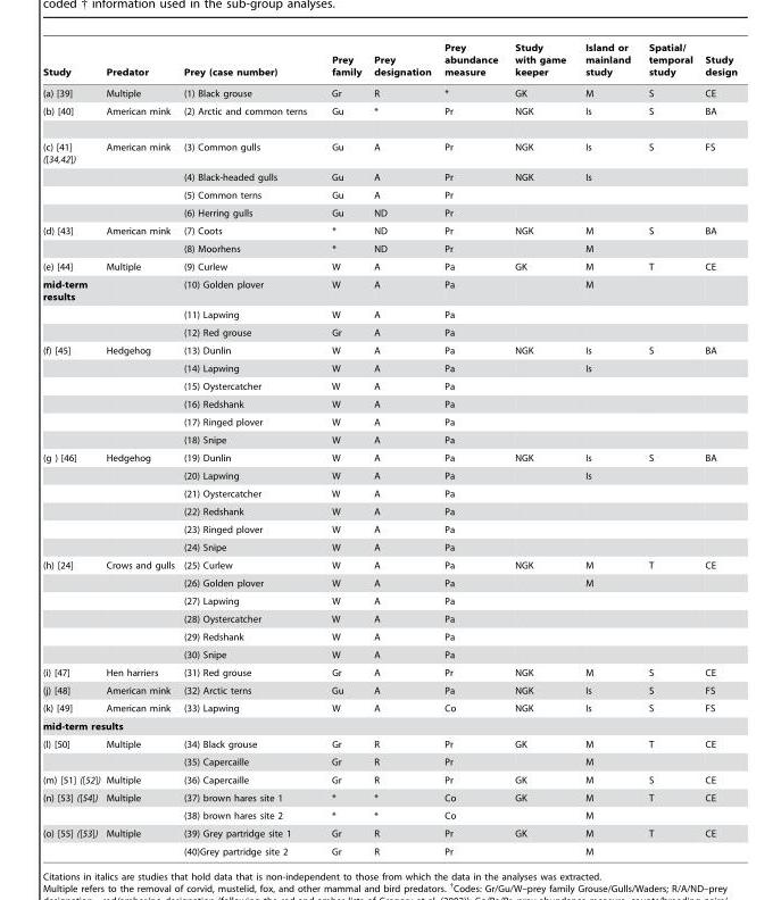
<table><thead><tr><td>Study</td><td>Predator</td><td>Prey (case number)</td><td>Prey family</td><td>Prey designation</td><td>Prey abundance measure</td><td>Study with game keeper</td><td>Island or mainland study</td><td>Spatial/ temporal study</td><td>Study design</td></tr></thead><tbody><tr><td>(a) [39]</td><td>Multiple</td><td>(1) Black grouse</td><td>Gr</td><td>R</td><td>*</td><td>GK</td><td>M</td><td>S</td><td>CE</td></tr><tr><td>(b) [40]</td><td>American mink</td><td>(2) Arctic and common terns</td><td>Gu</td><td>*</td><td>Pr</td><td>NGK</td><td>Is</td><td>S</td><td>BA</td></tr><tr><td rowspan="4">(c) [41] ([34,42])</td><td>American mink</td><td>(3) Common gulls</td><td>Gu</td><td>A</td><td>Pr</td><td>NGK</td><td>Is</td><td>S</td><td>FS</td></tr><tr><td></td><td>(4) Black-headed gulls</td><td>Gu</td><td>A</td><td>Pr</td><td>NGK</td><td>Is</td><td></td><td></td></tr><tr><td></td><td>(5) Common terns</td><td>Gu</td><td>A</td><td>Pr</td><td></td><td></td><td></td><td></td></tr><tr><td></td><td>(6) Herring gulls</td><td>Gu</td><td>ND</td><td>Pr</td><td></td><td></td><td></td><td></td></tr><tr><td rowspan="2">(d) [43]</td><td>American mink</td><td>(7) Coots</td><td>*</td><td>ND</td><td>Pr</td><td>NGK</td><td>M</td><td>S</td><td>BA</td></tr><tr><td></td><td>(8) Moorhens</td><td>*</td><td>ND</td><td>Pr</td><td></td><td>M</td><td></td><td></td></tr><tr><td>(e) [44]</td><td>Multiple</td><td>(9) Curlew</td><td>W</td><td>A</td><td>Pa</td><td>GK</td><td>M</td><td>T</td><td>CE</td></tr><tr><td rowspan="3">mid-term results</td><td></td><td>(10) Golden plover</td><td>W</td><td>A</td><td>Pa</td><td></td><td>M</td><td></td><td></td></tr><tr><td></td><td>(11) Lapwing</td><td>W</td><td>A</td><td>Pa</td><td></td><td></td><td></td><td></td></tr><tr><td></td><td>(12) Red grouse</td><td>Gr</td><td>A</td><td>Pa</td><td></td><td></td><td></td><td></td></tr><tr><td rowspan="6">(f) [45]</td><td>Hedgehog</td><td>(13) Dunlin</td><td>W</td><td>A</td><td>Pa</td><td>NGK</td><td>Is</td><td>S</td><td>BA</td></tr><tr><td></td><td>(14) Lapwing</td><td>W</td><td>A</td><td>Pa</td><td></td><td>Is</td><td></td><td></td></tr><tr><td></td><td>(15) Oystercatcher</td><td>W</td><td>A</td><td>Pa</td><td></td><td></td><td></td><td></td></tr><tr><td></td><td>(16) Redshank</td><td>W</td><td>A</td><td>Pa</td><td></td><td></td><td></td><td></td></tr><tr><td></td><td>(17) Ringed plover</td><td>W</td><td>A</td><td>Pa</td><td></td><td></td><td></td><td></td></tr><tr><td></td><td>(18) Snipe</td><td>W</td><td>A</td><td>Pa</td><td></td><td></td><td></td><td></td></tr><tr><td rowspan="6">(g ) [46]</td><td>Hedgehog</td><td>(19) Dunlin</td><td>W</td><td>A</td><td>Pa</td><td>NGK</td><td>Is</td><td>S</td><td>BA</td></tr><tr><td></td><td>(20) Lapwing</td><td>W</td><td>A</td><td>Pa</td><td></td><td>Is</td><td></td><td></td></tr><tr><td></td><td>(21) Oystercatcher</td><td>W</td><td>A</td><td>Pa</td><td></td><td></td><td></td><td></td></tr><tr><td></td><td>(22) Redshank</td><td>W</td><td>A</td><td>Pa</td><td></td><td></td><td></td><td></td></tr><tr><td></td><td>(23) Ringed plover</td><td>W</td><td>A</td><td>Pa</td><td></td><td></td><td></td><td></td></tr><tr><td></td><td>(24) Snipe</td><td>W</td><td>A</td><td>Pa</td><td></td><td></td><td></td><td></td></tr><tr><td rowspan="6">(h) [24]</td><td>Crows and gulls</td><td>(25) Curlew</td><td>W</td><td>A</td><td>Pa</td><td>NGK</td><td>M</td><td>T</td><td>CE</td></tr><tr><td></td><td>(26) Golden plover</td><td>W</td><td>A</td><td>Pa</td><td></td><td>M</td><td></td><td></td></tr><tr><td></td><td>(27) Lapwing</td><td>W</td><td>A</td><td>Pa</td><td></td><td></td><td></td><td></td></tr><tr><td></td><td>(28) Oystercatcher</td><td>W</td><td>A</td><td>Pa</td><td></td><td></td><td></td><td></td></tr><tr><td></td><td>(29) Redshank</td><td>W</td><td>A</td><td>Pa</td><td></td><td></td><td></td><td></td></tr><tr><td></td><td>(30) Snipe</td><td>W</td><td>A</td><td>Pa</td><td></td><td></td><td></td><td></td></tr><tr><td>(i) [47]</td><td>Hen harriers</td><td>(31) Red grouse</td><td>Gr</td><td>A</td><td>Pr</td><td>NGK</td><td>M</td><td>S</td><td>CE</td></tr><tr><td>(j) [48]</td><td>American mink</td><td>(32) Arctic terns</td><td>Gu</td><td>A</td><td>Pa</td><td>NGK</td><td>Is</td><td>S</td><td>FS</td></tr><tr><td>(k) [49]</td><td>American mink</td><td>(33) Lapwing</td><td>W</td><td>A</td><td>Co</td><td>NGK</td><td>Is</td><td>S</td><td>FS</td></tr><tr><td colspan="10">mid-term results</td></tr><tr><td rowspan="2">(l) [50]</td><td>Multiple</td><td>(34) Black grouse</td><td>Gr</td><td>R</td><td>Pr</td><td>GK</td><td>M</td><td>T</td><td>CE</td></tr><tr><td></td><td>(35) Capercaille</td><td>Gr</td><td>R</td><td>Pr</td><td></td><td>M</td><td></td><td></td></tr><tr><td>(m) [51] ([52])</td><td>Multiple</td><td>(36) Capercaille</td><td>Gr</td><td>R</td><td>Pr</td><td>GK</td><td>M</td><td>S</td><td>CE</td></tr><tr><td rowspan="2">(n) [53] ([54])</td><td>Multiple</td><td>(37) brown hares site 1</td><td>*</td><td>*</td><td>Co</td><td>GK</td><td>M</td><td>T</td><td>CE</td></tr><tr><td></td><td>(38) brown hares site 2</td><td>*</td><td>*</td><td>Co</td><td></td><td>M</td><td></td><td></td></tr><tr><td rowspan="2">(o) [55] ([53])</td><td>Multiple</td><td>(39) Grey partridge site 1</td><td>Gr</td><td>R</td><td>Pr</td><td>GK</td><td>M</td><td>T</td><td>CE</td></tr><tr><td></td><td>(40)Grey partridge site 2</td><td>Gr</td><td>R</td><td>Pr</td><td></td><td>M</td><td></td><td></td></tr></tbody></table>